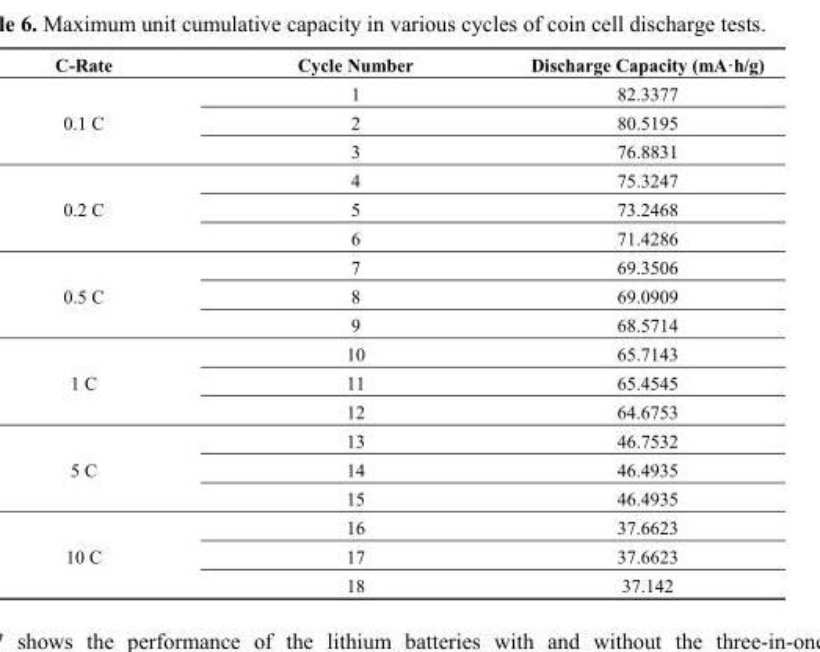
<table><thead><tr><td>C-Rate</td><td>Cycle Number</td><td>Discharge Capacity (mA·h/g)</td></tr></thead><tbody><tr><td rowspan="3">0.1 C</td><td>1</td><td>82.3377</td></tr><tr><td>2</td><td>80.5195</td></tr><tr><td>3</td><td>76.8831</td></tr><tr><td rowspan="3">0.2 C</td><td>4</td><td>75.3247</td></tr><tr><td>5</td><td>73.2468</td></tr><tr><td>6</td><td>71.4286</td></tr><tr><td rowspan="3">0.5 C</td><td>7</td><td>69.3506</td></tr><tr><td>8</td><td>69.0909</td></tr><tr><td>9</td><td>68.5714</td></tr><tr><td rowspan="3">1 C</td><td>10</td><td>65.7143</td></tr><tr><td>11</td><td>65.4545</td></tr><tr><td>12</td><td>64.6753</td></tr><tr><td rowspan="3">5 C</td><td>13</td><td>46.7532</td></tr><tr><td>14</td><td>46.4935</td></tr><tr><td>15</td><td>46.4935</td></tr><tr><td rowspan="3">10 C</td><td>16</td><td>37.6623</td></tr><tr><td>17</td><td>37.6623</td></tr><tr><td>18</td><td>37.142</td></tr></tbody></table>